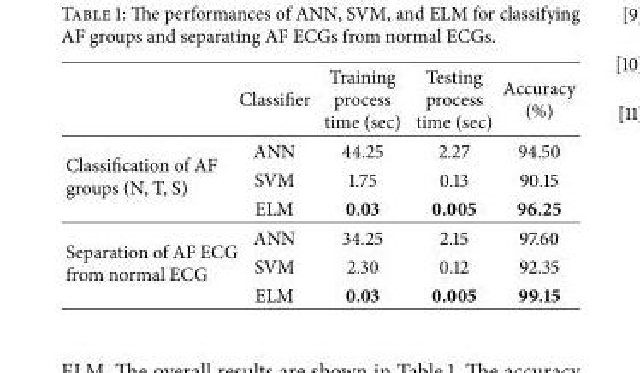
<table><thead><tr><td></td><td>Classifier</td><td>Training process time (sec)</td><td>Testing process time (sec)</td><td>Accuracy (%)</td></tr></thead><tbody><tr><td rowspan="3">Classification of AF groups (N, T, S)</td><td>ANN</td><td>44.25</td><td>2.27</td><td>94.50</td></tr><tr><td>SVM</td><td>1.75</td><td>0.13</td><td>90.15</td></tr><tr><td>ELM</td><td>0.03</td><td>0.005</td><td>96.25</td></tr><tr><td rowspan="3">Separation of AF ECG from normal ECG</td><td>ANN</td><td>34.25</td><td>2.15</td><td>97.60</td></tr><tr><td>SVM</td><td>2.30</td><td>0.12</td><td>92.35</td></tr><tr><td>ELM</td><td>0.03</td><td>0.005</td><td>99.15</td></tr></tbody></table>